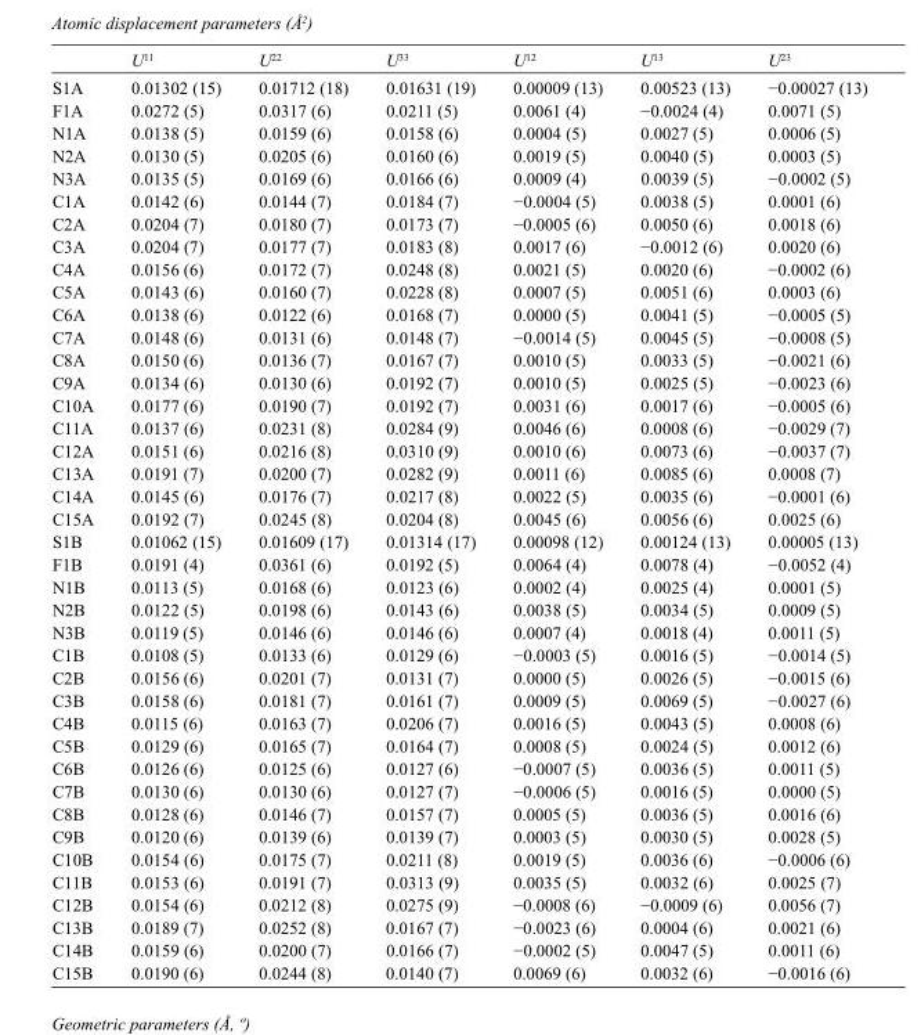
<table><thead><tr><td></td><td>U<sup>11</sup></td><td>U<sup>22</sup></td><td>U<sup>33</sup></td><td>U<sup>12</sup></td><td>U<sup>13</sup></td><td>U<sup>23</sup></td></tr></thead><tbody><tr><td>S1A</td><td>0.01302 (15)</td><td>0.01712 (18)</td><td>0.01631 (19)</td><td>0.00009 (13)</td><td>0.00523 (13)</td><td>−0.00027 (13)</td></tr><tr><td>F1A</td><td>0.0272 (5)</td><td>0.0317 (6)</td><td>0.0211 (5)</td><td>0.0061 (4)</td><td>−0.0024 (4)</td><td>0.0071 (5)</td></tr><tr><td>N1A</td><td>0.0138 (5)</td><td>0.0159 (6)</td><td>0.0158 (6)</td><td>0.0004 (5)</td><td>0.0027 (5)</td><td>0.0006 (5)</td></tr><tr><td>N2A</td><td>0.0130 (5)</td><td>0.0205 (6)</td><td>0.0160 (6)</td><td>0.0019 (5)</td><td>0.0040 (5)</td><td>0.0003 (5)</td></tr><tr><td>N3A</td><td>0.0135 (5)</td><td>0.0169 (6)</td><td>0.0166 (6)</td><td>0.0009 (4)</td><td>0.0039 (5)</td><td>−0.0002 (5)</td></tr><tr><td>C1A</td><td>0.0142 (6)</td><td>0.0144 (7)</td><td>0.0184 (7)</td><td>−0.0004 (5)</td><td>0.0038 (5)</td><td>0.0001 (6)</td></tr><tr><td>C2A</td><td>0.0204 (7)</td><td>0.0180 (7)</td><td>0.0173 (7)</td><td>−0.0005 (6)</td><td>0.0050 (6)</td><td>0.0018 (6)</td></tr><tr><td>C3A</td><td>0.0204 (7)</td><td>0.0177 (7)</td><td>0.0183 (8)</td><td>0.0017 (6)</td><td>−0.0012 (6)</td><td>0.0020 (6)</td></tr><tr><td>C4A</td><td>0.0156 (6)</td><td>0.0172 (7)</td><td>0.0248 (8)</td><td>0.0021 (5)</td><td>0.0020 (6)</td><td>−0.0002 (6)</td></tr><tr><td>C5A</td><td>0.0143 (6)</td><td>0.0160 (7)</td><td>0.0228 (8)</td><td>0.0007 (5)</td><td>0.0051 (6)</td><td>0.0003 (6)</td></tr><tr><td>C6A</td><td>0.0138 (6)</td><td>0.0122 (6)</td><td>0.0168 (7)</td><td>0.0000 (5)</td><td>0.0041 (5)</td><td>−0.0005 (5)</td></tr><tr><td>C7A</td><td>0.0148 (6)</td><td>0.0131 (6)</td><td>0.0148 (7)</td><td>−0.0014 (5)</td><td>0.0045 (5)</td><td>−0.0008 (5)</td></tr><tr><td>C8A</td><td>0.0150 (6)</td><td>0.0136 (7)</td><td>0.0167 (7)</td><td>0.0010 (5)</td><td>0.0033 (5)</td><td>−0.0021 (6)</td></tr><tr><td>C9A</td><td>0.0134 (6)</td><td>0.0130 (6)</td><td>0.0192 (7)</td><td>0.0010 (5)</td><td>0.0025 (5)</td><td>−0.0023 (6)</td></tr><tr><td>C10A</td><td>0.0177 (6)</td><td>0.0190 (7)</td><td>0.0192 (7)</td><td>0.0031 (6)</td><td>0.0017 (6)</td><td>−0.0005 (6)</td></tr><tr><td>C11A</td><td>0.0137 (6)</td><td>0.0231 (8)</td><td>0.0284 (9)</td><td>0.0046 (6)</td><td>0.0008 (6)</td><td>−0.0029 (7)</td></tr><tr><td>C12A</td><td>0.0151 (6)</td><td>0.0216 (8)</td><td>0.0310 (9)</td><td>0.0010 (6)</td><td>0.0073 (6)</td><td>−0.0037 (7)</td></tr><tr><td>C13A</td><td>0.0191 (7)</td><td>0.0200 (7)</td><td>0.0282 (9)</td><td>0.0011 (6)</td><td>0.0085 (6)</td><td>0.0008 (7)</td></tr><tr><td>C14A</td><td>0.0145 (6)</td><td>0.0176 (7)</td><td>0.0217 (8)</td><td>0.0022 (5)</td><td>0.0035 (6)</td><td>−0.0001 (6)</td></tr><tr><td>C15A</td><td>0.0192 (7)</td><td>0.0245 (8)</td><td>0.0204 (8)</td><td>0.0045 (6)</td><td>0.0056 (6)</td><td>0.0025 (6)</td></tr><tr><td>S1B</td><td>0.01062 (15)</td><td>0.01609 (17)</td><td>0.01314 (17)</td><td>0.00098 (12)</td><td>0.00124 (13)</td><td>0.00005 (13)</td></tr><tr><td>F1B</td><td>0.0191 (4)</td><td>0.0361 (6)</td><td>0.0192 (5)</td><td>0.0064 (4)</td><td>0.0078 (4)</td><td>−0.0052 (4)</td></tr><tr><td>N1B</td><td>0.0113 (5)</td><td>0.0168 (6)</td><td>0.0123 (6)</td><td>0.0002 (4)</td><td>0.0025 (4)</td><td>0.0001 (5)</td></tr><tr><td>N2B</td><td>0.0122 (5)</td><td>0.0198 (6)</td><td>0.0143 (6)</td><td>0.0038 (5)</td><td>0.0034 (5)</td><td>0.0009 (5)</td></tr><tr><td>N3B</td><td>0.0119 (5)</td><td>0.0146 (6)</td><td>0.0146 (6)</td><td>0.0007 (4)</td><td>0.0018 (4)</td><td>0.0011 (5)</td></tr><tr><td>C1B</td><td>0.0108 (5)</td><td>0.0133 (6)</td><td>0.0129 (6)</td><td>−0.0003 (5)</td><td>0.0016 (5)</td><td>−0.0014 (5)</td></tr><tr><td>C2B</td><td>0.0156 (6)</td><td>0.0201 (7)</td><td>0.0131 (7)</td><td>0.0000 (5)</td><td>0.0026 (5)</td><td>−0.0015 (6)</td></tr><tr><td>C3B</td><td>0.0158 (6)</td><td>0.0181 (7)</td><td>0.0161 (7)</td><td>0.0009 (5)</td><td>0.0069 (5)</td><td>−0.0027 (6)</td></tr><tr><td>C4B</td><td>0.0115 (6)</td><td>0.0163 (7)</td><td>0.0206 (7)</td><td>0.0016 (5)</td><td>0.0043 (5)</td><td>0.0008 (6)</td></tr><tr><td>C5B</td><td>0.0129 (6)</td><td>0.0165 (7)</td><td>0.0164 (7)</td><td>0.0008 (5)</td><td>0.0024 (5)</td><td>0.0012 (6)</td></tr><tr><td>C6B</td><td>0.0126 (6)</td><td>0.0125 (6)</td><td>0.0127 (6)</td><td>−0.0007 (5)</td><td>0.0036 (5)</td><td>0.0011 (5)</td></tr><tr><td>C7B</td><td>0.0130 (6)</td><td>0.0130 (6)</td><td>0.0127 (7)</td><td>−0.0006 (5)</td><td>0.0016 (5)</td><td>0.0000 (5)</td></tr><tr><td>C8B</td><td>0.0128 (6)</td><td>0.0146 (7)</td><td>0.0157 (7)</td><td>0.0005 (5)</td><td>0.0036 (5)</td><td>0.0016 (6)</td></tr><tr><td>C9B</td><td>0.0120 (6)</td><td>0.0139 (6)</td><td>0.0139 (7)</td><td>0.0003 (5)</td><td>0.0030 (5)</td><td>0.0028 (5)</td></tr><tr><td>C10B</td><td>0.0154 (6)</td><td>0.0175 (7)</td><td>0.0211 (8)</td><td>0.0019 (5)</td><td>0.0036 (6)</td><td>−0.0006 (6)</td></tr><tr><td>C11B</td><td>0.0153 (6)</td><td>0.0191 (7)</td><td>0.0313 (9)</td><td>0.0035 (5)</td><td>0.0032 (6)</td><td>0.0025 (7)</td></tr><tr><td>C12B</td><td>0.0154 (6)</td><td>0.0212 (8)</td><td>0.0275 (9)</td><td>−0.0008 (6)</td><td>−0.0009 (6)</td><td>0.0056 (7)</td></tr><tr><td>C13B</td><td>0.0189 (7)</td><td>0.0252 (8)</td><td>0.0167 (7)</td><td>−0.0023 (6)</td><td>0.0004 (6)</td><td>0.0021 (6)</td></tr><tr><td>C14B</td><td>0.0159 (6)</td><td>0.0200 (7)</td><td>0.0166 (7)</td><td>−0.0002 (5)</td><td>0.0047 (5)</td><td>0.0011 (6)</td></tr><tr><td>C15B</td><td>0.0190 (6)</td><td>0.0244 (8)</td><td>0.0140 (7)</td><td>0.0069 (6)</td><td>0.0032 (6)</td><td>−0.0016 (6)</td></tr></tbody></table>